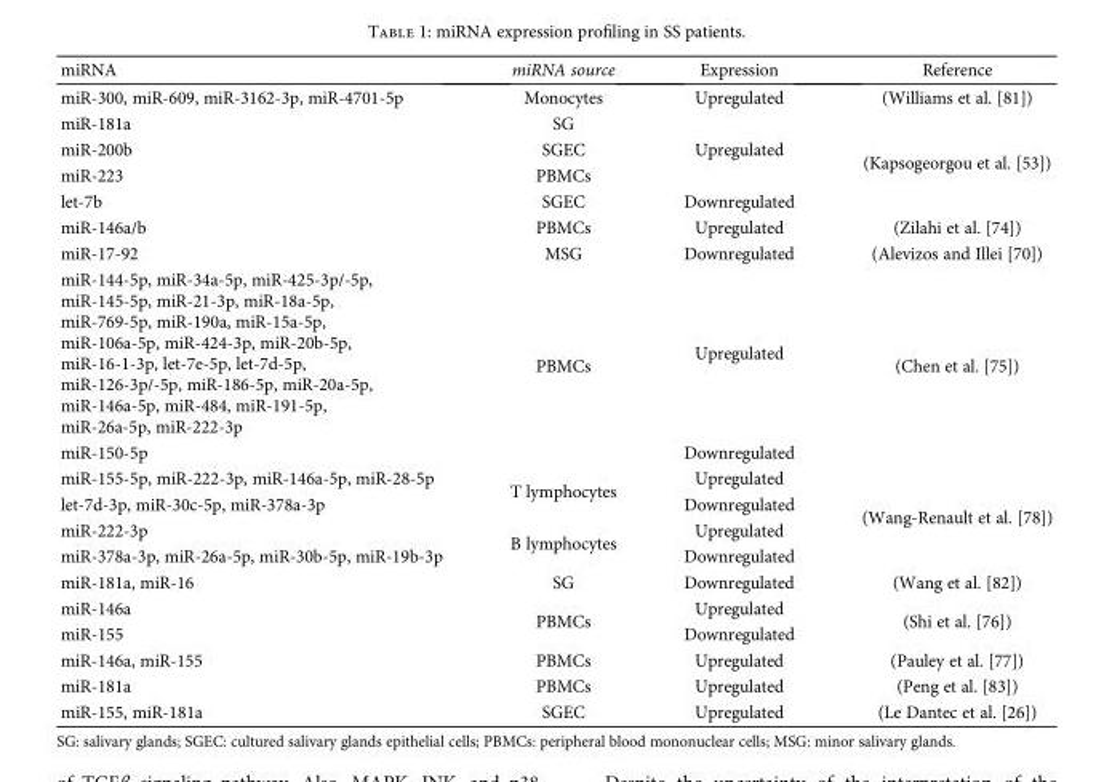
<table><thead><tr><td>miRNA</td><td>miRNA source</td><td>Expression</td><td>Reference</td></tr></thead><tbody><tr><td>miR-300, miR-609, miR-3162-3p, miR-4701-5p</td><td>Monocytes</td><td>Upregulated</td><td>(Williams et al. [81])</td></tr><tr><td>miR-181a</td><td>SG</td><td rowspan="3">Upregulated</td><td rowspan="4">(Kapsogeorgou et al. [53])</td></tr><tr><td>miR-200b</td><td>SGEC</td></tr><tr><td>miR-223</td><td>PBMCs</td></tr><tr><td>let-7b</td><td>SGEC</td><td>Downregulated</td></tr><tr><td>miR-146a/b</td><td>PBMCs</td><td>Upregulated</td><td>(Zilahi et al. [74])</td></tr><tr><td>miR-17-92</td><td>MSG</td><td>Downregulated</td><td>(Alevizos and Illei [70])</td></tr><tr><td>miR-144-5p, miR-34a-5p, miR-425-3p/-5p, miR-145-5p, miR-21-3p, miR-18a-5p, miR-769-5p, miR-190a, miR-15a-5p, miR-106a-5p, miR-424-3p, miR-20b-5p, miR-16-1-3p, let-7e-5p, let-7d-5p, miR-126-3p/-5p, miR-186-5p, miR-20a-5p, miR-146a-5p, miR-484, miR-191-5p, miR-26a-5p, miR-222-3p</td><td rowspan="2">PBMCs</td><td>Upregulated</td><td rowspan="2">(Chen et al. [75])</td></tr><tr><td>miR-150-5p</td><td>Downregulated</td></tr><tr><td>miR-155-5p, miR-222-3p, miR-146a-5p, miR-28-5p</td><td rowspan="2">T lymphocytes</td><td>Upregulated</td><td rowspan="4">(Wang-Renault et al. [78])</td></tr><tr><td>let-7d-3p, miR-30c-5p, miR-378a-3p</td><td>Downregulated</td></tr><tr><td>miR-222-3p</td><td rowspan="2">B lymphocytes</td><td>Upregulated</td></tr><tr><td>miR-378a-3p, miR-26a-5p, miR-30b-5p, miR-19b-3p</td><td>Downregulated</td></tr><tr><td>miR-181a, miR-16</td><td>SG</td><td>Downregulated</td><td>(Wang et al. [82])</td></tr><tr><td>miR-146a</td><td rowspan="2">PBMCs</td><td>Upregulated</td><td rowspan="2">(Shi et al. [76])</td></tr><tr><td>miR-155</td><td>Downregulated</td></tr><tr><td>miR-146a, miR-155</td><td>PBMCs</td><td>Upregulated</td><td>(Pauley et al. [77])</td></tr><tr><td>miR-181a</td><td>PBMCs</td><td>Upregulated</td><td>(Peng et al. [83])</td></tr><tr><td>miR-155, miR-181a</td><td>SGEC</td><td>Upregulated</td><td>(Le Dantec et al. [26])</td></tr></tbody></table>